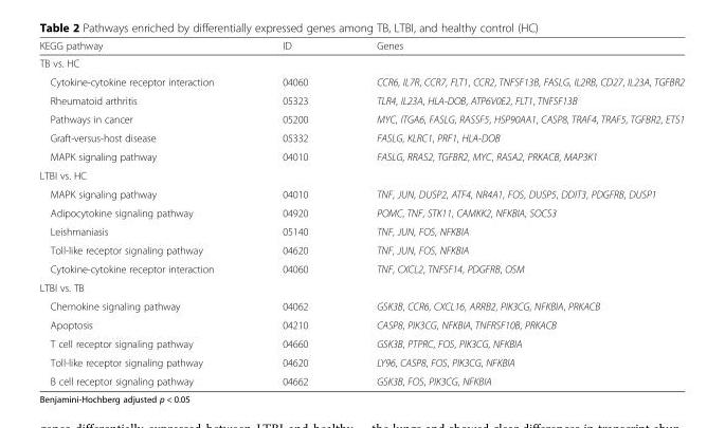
<table><thead><tr><td>KEGG pathway</td><td>ID</td><td>Genes</td></tr></thead><tbody><tr><td colspan="3">TB vs. HC</td></tr><tr><td>Cytokine-cytokine receptor interaction</td><td>04060</td><td>CCR6, IL7R, CCR7, FLT1, CCR2, TNFSF13B, FASLG, IL2RB, CD27, IL23A, TGFBR2</td></tr><tr><td>Rheumatoid arthritis</td><td>05323</td><td>TLR4, IL23A, HLA-DOB, ATP6V0E2, FLT1, TNFSF13B</td></tr><tr><td>Pathways in cancer</td><td>05200</td><td>MYC, ITGA6, FASLG, RASSF5, HSP90AA1, CASP8, TRAF4, TRAF5, TGFBR2, ETS1</td></tr><tr><td>Graft-versus-host disease</td><td>05332</td><td>FASLG, KLRC1, PRF1, HLA-DOB</td></tr><tr><td>MAPK signaling pathway</td><td>04010</td><td>FASLG, RRAS2, TGFBR2, MYC, RASA2, PRKACB, MAP3K1</td></tr><tr><td colspan="3">LTBI vs. HC</td></tr><tr><td>MAPK signaling pathway</td><td>04010</td><td>TNF, JUN, DUSP2, ATF4, NR4A1, FOS, DUSP5, DDIT3, PDGFRB, DUSP1</td></tr><tr><td>Adipocytokine signaling pathway</td><td>04920</td><td>POMC, TNF, STK11, CAMKK2, NFKBIA, SOCS3</td></tr><tr><td>Leishmaniasis</td><td>05140</td><td>TNF, JUN, FOS, NFKBIA</td></tr><tr><td>Toll-like receptor signaling pathway</td><td>04620</td><td>TNF, JUN, FOS, NFKBIA</td></tr><tr><td>Cytokine-cytokine receptor interaction</td><td>04060</td><td>TNF, CXCL2, TNFSF14, PDGFRB, OSM</td></tr><tr><td colspan="3">LTBI vs. TB</td></tr><tr><td>Chemokine signaling pathway</td><td>04062</td><td>GSK3B, CCR6, CXCL16, ARRB2, PIK3CG, NFKBIA, PRKACB</td></tr><tr><td>Apoptosis</td><td>04210</td><td>CASP8, PIK3CG, NFKBIA, TNFRSF10B, PRKACB</td></tr><tr><td>T cell receptor signaling pathway</td><td>04660</td><td>GSK3B, PTPRC, FOS, PIK3CG, NFKBIA</td></tr><tr><td>Toll-like receptor signaling pathway</td><td>04620</td><td>LY96, CASP8, FOS, PIK3CG, NFKBIA</td></tr><tr><td>B cell receptor signaling pathway</td><td>04662</td><td>GSK3B, FOS, PIK3CG, NFKBIA</td></tr></tbody></table>